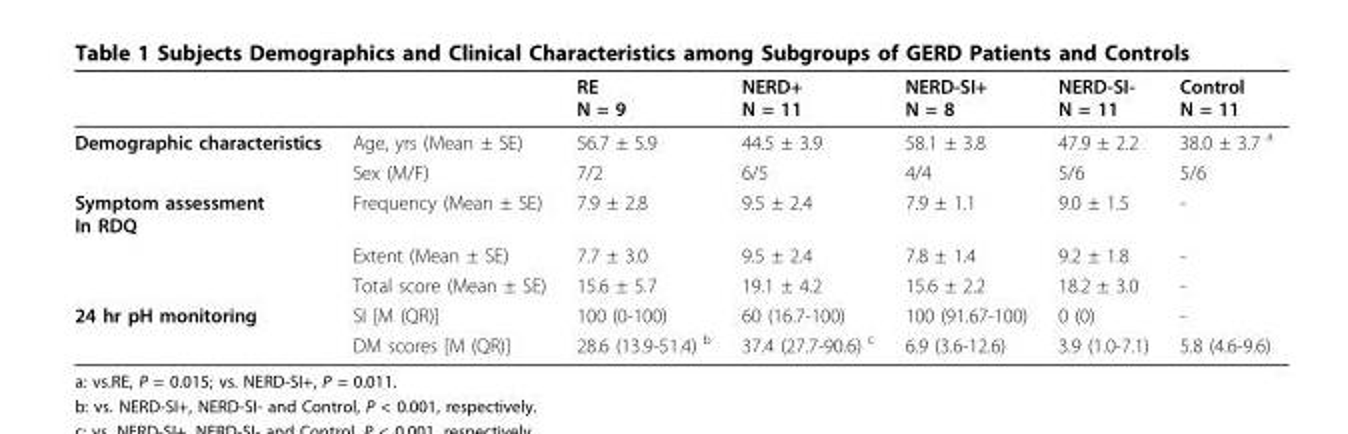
<table><thead><tr><td></td><td></td><td>RE N = 9</td><td>NERD+ N = 11</td><td>NERD-SI+ N = 8</td><td>NERD-SI- N = 11</td><td>Control N = 11</td></tr></thead><tbody><tr><td rowspan="2">Demographic characteristics</td><td>Age, yrs (Mean ± SE)</td><td>56.7 ± 5.9</td><td>44.5 ± 3.9</td><td>58.1 ± 3.8</td><td>47.9 ± 2.2</td><td>38.0 ± 3.7 <sup>a</sup></td></tr><tr><td>Sex (M/F)</td><td>7/2</td><td>6/5</td><td>4/4</td><td>5/6</td><td>5/6</td></tr><tr><td rowspan="3">Symptom assessment In RDQ</td><td>Frequency (Mean ± SE)</td><td>7.9 ± 2.8</td><td>9.5 ± 2.4</td><td>7.9 ± 1.1</td><td>9.0 ± 1.5</td><td>-</td></tr><tr><td>Extent (Mean ± SE)</td><td>7.7 ± 3.0</td><td>9.5 ± 2.4</td><td>7.8 ± 1.4</td><td>9.2 ± 1.8</td><td>-</td></tr><tr><td>Total score (Mean ± SE)</td><td>15.6 ± 5.7</td><td>19.1 ± 4.2</td><td>15.6 ± 2.2</td><td>18.2 ± 3.0</td><td>-</td></tr><tr><td rowspan="2">24 hr pH monitoring</td><td>SI [M (QR)]</td><td>100 (0-100)</td><td>60 (16.7-100)</td><td>100 (91.67-100)</td><td>0 (0)</td><td>-</td></tr><tr><td>DM scores [M (QR)]</td><td>28.6 (13.9-51.4) <sup>b</sup></td><td>37.4 (27.7-90.6) <sup>c</sup></td><td>6.9 (3.6-12.6)</td><td>3.9 (1.0-7.1)</td><td>5.8 (4.6-9.6)</td></tr></tbody></table>